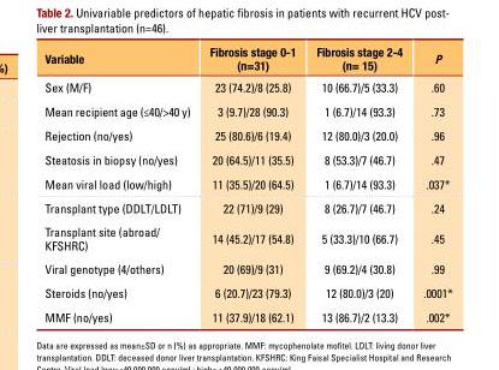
<table><thead><tr><td>Variable</td><td>Fibrosis stage 0-1 (n=31)</td><td>Fibrosis stage 2-4 (n= 15)</td><td>P</td></tr></thead><tbody><tr><td>Sex (M/F)</td><td>23 (74.2)/8 (25.8)</td><td>10 (66.7)/5 (33.3)</td><td>.60</td></tr><tr><td>Mean recipient age (≤40/&gt;40 y)</td><td>3 (9.7)/28 (90.3)</td><td>1 (6.7)/14 (93.3)</td><td>.73</td></tr><tr><td>Rejection (no/yes)</td><td>25 (80.6)/6 (19.4)</td><td>12 (80.0)/3 (20.0)</td><td>.96</td></tr><tr><td>Steatosis in biopsy (no/yes)</td><td>20 (64.5)/11 (35.5)</td><td>8 (53.3)/7 (46.7)</td><td>.47</td></tr><tr><td>Mean viral load (low/high)</td><td>11 (35.5)/20 (64.5)</td><td>1 (6.7)/14 (93.3)</td><td>.037*</td></tr><tr><td>transplant type (DDLt/LDLt)</td><td>22 (71)/9 (29)</td><td>8 (26.7)/7 (46.7)</td><td>.24</td></tr><tr><td>transplant site (abroad/ KFShRc)</td><td>14 (45.2)/17 (54.8)</td><td>5 (33.3)/10 (66.7)</td><td>.45</td></tr><tr><td>viral genotype (4/others)</td><td>20 (69)/9 (31)</td><td>9 (69.2)/4 (30.8)</td><td>.99</td></tr><tr><td>Steroids (no/yes)</td><td>6 (20.7)/23 (79.3)</td><td>12 (80.0)/3 (20)</td><td>.0001*</td></tr><tr><td>MMF (no/yes)</td><td>11 (37.9)/18 (62.1)</td><td>13 (86.7)/2 (13.3)</td><td>.002*</td></tr></tbody></table>